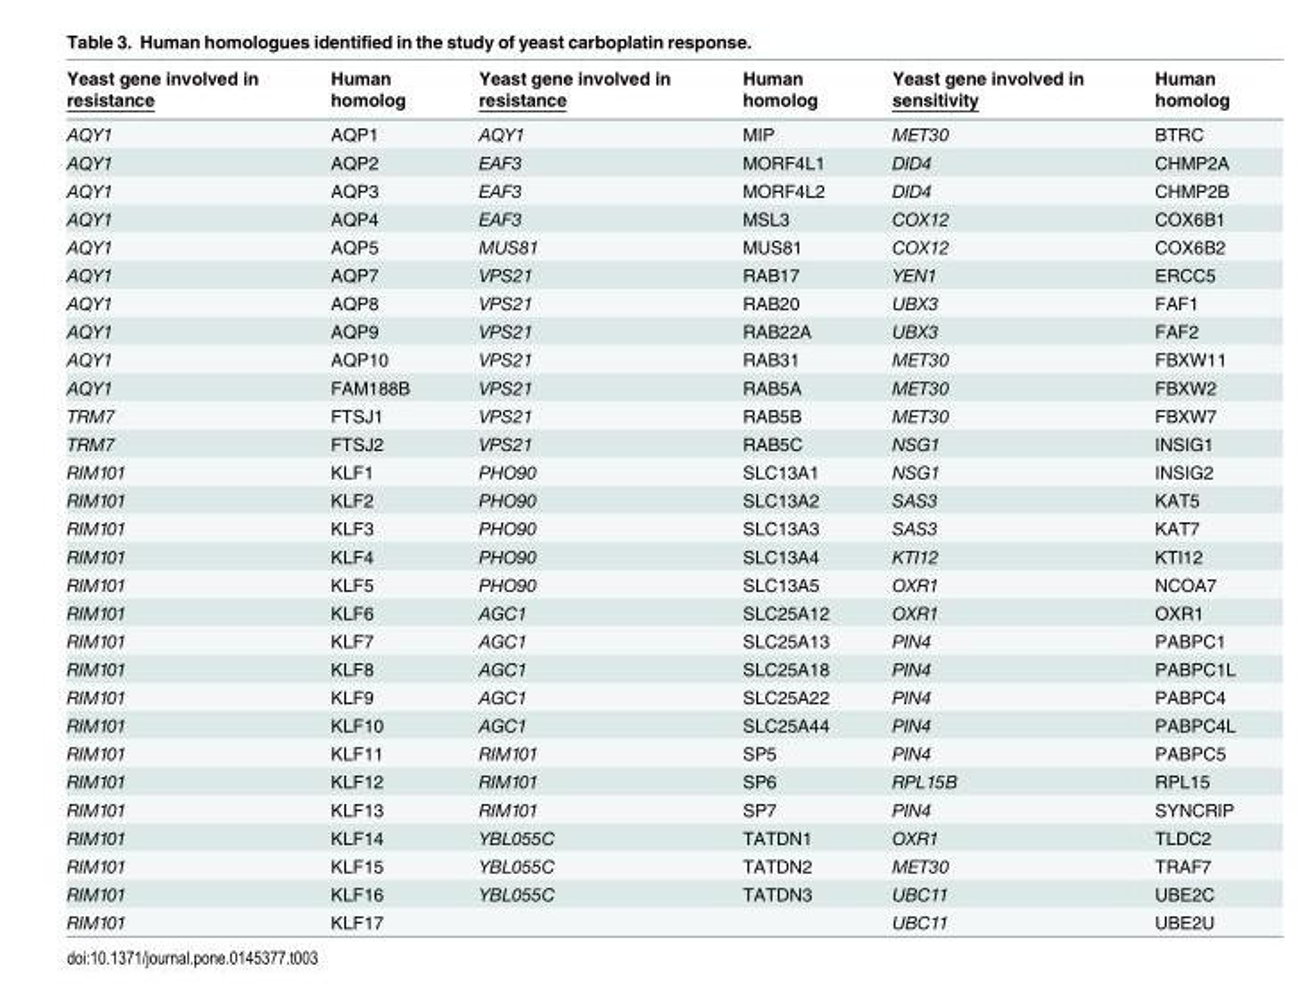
<table><thead><tr><td>Yeast gene involved in resistance</td><td>Human homolog</td><td>Yeast gene involved in resistance</td><td>Human homolog</td><td>Yeast gene involved in sensitivity</td><td>Human homolog</td></tr></thead><tbody><tr><td>AQY1</td><td>AQP1</td><td>AQY1</td><td>MIP</td><td>MET30</td><td>BTRC</td></tr><tr><td>AQY1</td><td>AQP2</td><td>EAF3</td><td>MORF4L1</td><td>DID4</td><td>CHMP2A</td></tr><tr><td>AQY1</td><td>AQP3</td><td>EAF3</td><td>MORF4L2</td><td>DID4</td><td>CHMP2B</td></tr><tr><td>AQY1</td><td>AQP4</td><td>EAF3</td><td>MSL3</td><td>COX12</td><td>COX6B1</td></tr><tr><td>AQY1</td><td>AQP5</td><td>MUS81</td><td>MUS81</td><td>COX12</td><td>COX6B2</td></tr><tr><td>AQY1</td><td>AQP7</td><td>VPS21</td><td>RAB17</td><td>YEN1</td><td>ERCC5</td></tr><tr><td>AQY1</td><td>AQP8</td><td>VPS21</td><td>RAB20</td><td>UBX3</td><td>FAF1</td></tr><tr><td>AQY1</td><td>AQP9</td><td>VPS21</td><td>RAB22A</td><td>UBX3</td><td>FAF2</td></tr><tr><td>AQY1</td><td>AQP10</td><td>VPS21</td><td>RAB31</td><td>MET30</td><td>FBXW11</td></tr><tr><td>AQY1</td><td>FAM188B</td><td>VPS21</td><td>RAB5A</td><td>MET30</td><td>FBXW2</td></tr><tr><td>TRM7</td><td>FTSJ1</td><td>VPS21</td><td>RAB5B</td><td>MET30</td><td>FBXW7</td></tr><tr><td>TRM7</td><td>FTSJ2</td><td>VPS21</td><td>RAB5C</td><td>NSG1</td><td>INSIG1</td></tr><tr><td>RIM101</td><td>KLF1</td><td>PHO90</td><td>SLC13A1</td><td>NSG1</td><td>INSIG2</td></tr><tr><td>RIM101</td><td>KLF2</td><td>PHO90</td><td>SLC13A2</td><td>SAS3</td><td>KAT5</td></tr><tr><td>RIM101</td><td>KLF3</td><td>PHO90</td><td>SLC13A3</td><td>SAS3</td><td>KAT7</td></tr><tr><td>RIM101</td><td>KLF4</td><td>PHO90</td><td>SLC13A4</td><td>KTI12</td><td>KTI12</td></tr><tr><td>RIM101</td><td>KLF5</td><td>PHO90</td><td>SLC13A5</td><td>OXR1</td><td>NCOA7</td></tr><tr><td>RIM101</td><td>KLF6</td><td>AGC1</td><td>SLC25A12</td><td>OXR1</td><td>OXR1</td></tr><tr><td>RIM101</td><td>KLF7</td><td>AGC1</td><td>SLC25A13</td><td>PIN4</td><td>PABPC1</td></tr><tr><td>RIM101</td><td>KLF8</td><td>AGC1</td><td>SLC25A18</td><td>PIN4</td><td>PABPC1L</td></tr><tr><td>RIM101</td><td>KLF9</td><td>AGC1</td><td>SLC25A22</td><td>PIN4</td><td>PABPC4</td></tr><tr><td>RIM101</td><td>KLF10</td><td>AGC1</td><td>SLC25A44</td><td>PIN4</td><td>PABPC4L</td></tr><tr><td>RIM101</td><td>KLF11</td><td>RIM101</td><td>SP5</td><td>PIN4</td><td>PABPC5</td></tr><tr><td>RIM101</td><td>KLF12</td><td>RIM101</td><td>SP6</td><td>RPL15B</td><td>RPL15</td></tr><tr><td>RIM101</td><td>KLF13</td><td>RIM101</td><td>SP7</td><td>PIN4</td><td>SYNCRIP</td></tr><tr><td>RIM101</td><td>KLF14</td><td>YBL055C</td><td>TATDN1</td><td>OXR1</td><td>TLDC2</td></tr><tr><td>RIM101</td><td>KLF15</td><td>YBL055C</td><td>TATDN2</td><td>MET30</td><td>TRAF7</td></tr><tr><td>RIM101</td><td>KLF16</td><td>YBL055C</td><td>TATDN3</td><td>UBC11</td><td>UBE2C</td></tr><tr><td>RIM101</td><td>KLF17</td><td></td><td></td><td>UBC11</td><td>UBE2U</td></tr></tbody></table>